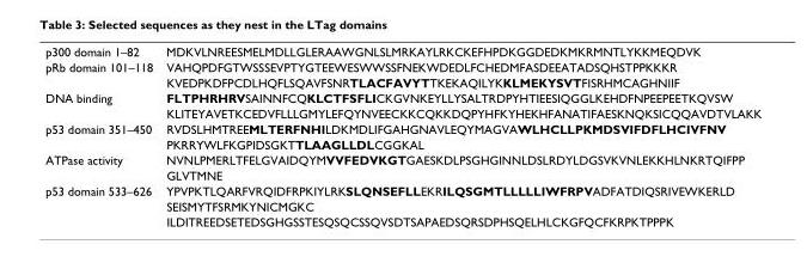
<table><tbody><tr><td>p300 domain 1–82</td><td>MDKVLNREESMELMDLLGLERAAWGNLSLMRKAYLRKCKEFHPDKGGDEDKMKRMNTLYKKMEQDVK</td></tr><tr><td rowspan="2">pRb domain 101–118</td><td>VAHQPDFGTWSSSEVPTYGTEEWESWWSSFNEKWDEDLFCHEDMFASDEEATADSQHSTPPKKKR</td></tr><tr><td>KVEDPKDFPCDLHQFLSQAVFSNRTLACFAVYTTKEKAQILYKKLMEKYSVTFISRHMCAGHNIIF</td></tr><tr><td rowspan="2">DNA binding</td><td>FLTPHRHRVSAINNFCQKLCTFSFLICKGVNKEYLLYSALTRDPYHTIEESIQGGLKEHDFNPEEPEETKQVSW</td></tr><tr><td>KLITEYAVETKCEDVFLLLGMYLEFQYNVEECKKCQKKDQPYHFKYHEKHFANATIFAESKNQKSICQQAVDTVLAKK</td></tr><tr><td rowspan="2">p53 domain 351–450</td><td>RVDSLHMTREEMLTERFNHILDKMDLIFGAHGNAVLEQYMAGVAWLHCLLPKMDSVIFDFLHCIVFNV</td></tr><tr><td>PKRRYWLFKGPIDSGKTTLAAGLLDLCGGKAL</td></tr><tr><td rowspan="2">ATPase activity</td><td>NVNLPMERLTFELGVAIDQYMVVFEDVKGTGAESKDLPSGHGINNLDSLRDYLDGSVKVNLEKKHLNKRTQIFPP</td></tr><tr><td>GLVTMNE</td></tr><tr><td rowspan="3">p53 domain 533–626</td><td>YPVPKTLQARFVRQIDFRPKIYLRKSLQNSEFLLEKRILQSGMTLLLLLIWFRPVADFATDIQSRIVEWKERLD</td></tr><tr><td>SEISMYTFSRMKYNICMGKC</td></tr><tr><td>ILDITREEDSETEDSGHGSSTESQSQCSSQVSDTSAPAEDSQRSDPHSQELHLCKGFQCFKRPKTPPPK</td></tr></tbody></table>